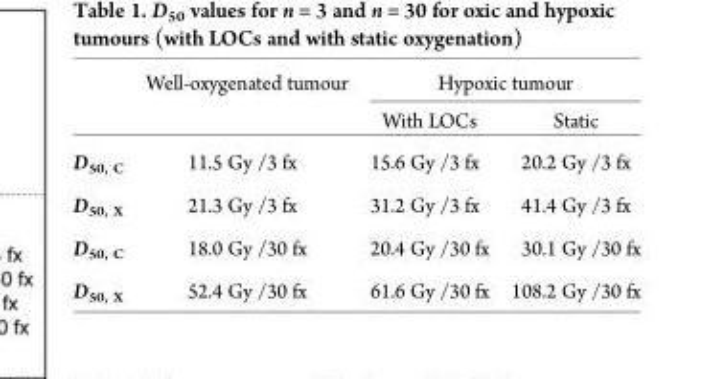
<table><thead><tr><td rowspan="2"></td><td rowspan="2">Well-oxygenated tumour</td><td colspan="2">Hypoxic tumour</td></tr><tr><td>With LOCs</td><td>Static</td></tr></thead><tbody><tr><td>D<sub>50, C</sub></td><td>11.5 Gy /3 fx</td><td>15.6 Gy /3 fx</td><td>20.2 Gy /3 fx</td></tr><tr><td>D<sub>50, X</sub></td><td>21.3 Gy /3 fx</td><td>31.2 Gy /3 fx</td><td>41.4 Gy /3 fx</td></tr><tr><td>D<sub>50, C</sub></td><td>18.0 Gy /30 fx</td><td>20.4 Gy /30 fx</td><td>30.1 Gy /30 fx</td></tr><tr><td>D<sub>50, X</sub></td><td>52.4 Gy /30 fx</td><td>61.6 Gy /30 fx</td><td>108.2 Gy /30 fx</td></tr></tbody></table>